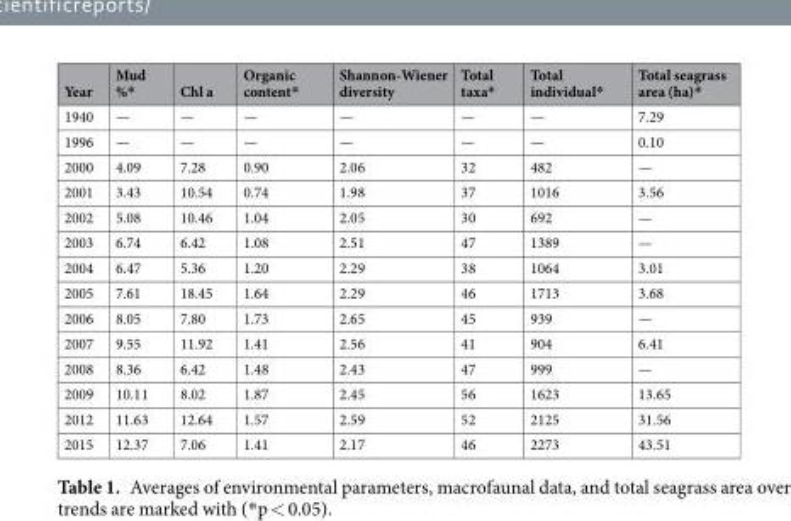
<table><thead><tr><td>Year</td><td>Mud %*</td><td>Chl a</td><td>Organic content*</td><td>Shannon-Wiener diversity</td><td>Total taxa*</td><td>Total individual*</td><td>Total seagrass area (ha)*</td></tr></thead><tbody><tr><td>1940</td><td>—</td><td>—</td><td>—</td><td>—</td><td>—</td><td>—</td><td>7.29</td></tr><tr><td>1996</td><td>—</td><td>—</td><td>—</td><td>—</td><td>—</td><td>—</td><td>0.10</td></tr><tr><td>2000</td><td>4.09</td><td>7.28</td><td>0.90</td><td>2.06</td><td>32</td><td>482</td><td>—</td></tr><tr><td>2001</td><td>3.43</td><td>10.54</td><td>0.74</td><td>1.98</td><td>37</td><td>1016</td><td>3.56</td></tr><tr><td>2002</td><td>5.08</td><td>10.46</td><td>1.04</td><td>2.05</td><td>30</td><td>692</td><td>—</td></tr><tr><td>2003</td><td>6.74</td><td>6.42</td><td>1.08</td><td>2.51</td><td>47</td><td>1389</td><td>—</td></tr><tr><td>2004</td><td>6.47</td><td>5.36</td><td>1.20</td><td>2.29</td><td>38</td><td>1064</td><td>3.01</td></tr><tr><td>2005</td><td>7.61</td><td>18.45</td><td>1.64</td><td>2.29</td><td>46</td><td>1713</td><td>3.68</td></tr><tr><td>2006</td><td>8.05</td><td>7.80</td><td>1.73</td><td>2.65</td><td>45</td><td>939</td><td>—</td></tr><tr><td>2007</td><td>9.55</td><td>11.92</td><td>1.41</td><td>2.56</td><td>41</td><td>904</td><td>6.41</td></tr><tr><td>2008</td><td>8.36</td><td>6.42</td><td>1.48</td><td>2.43</td><td>47</td><td>999</td><td>—</td></tr><tr><td>2009</td><td>10.11</td><td>8.02</td><td>1.87</td><td>2.45</td><td>56</td><td>1623</td><td>13.65</td></tr><tr><td>2012</td><td>11.63</td><td>12.64</td><td>1.57</td><td>2.59</td><td>52</td><td>2125</td><td>31.56</td></tr><tr><td>2015</td><td>12.37</td><td>7.06</td><td>1.41</td><td>2.17</td><td>46</td><td>2273</td><td>43.51</td></tr></tbody></table>